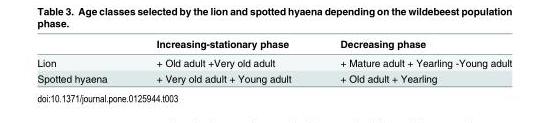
<table><thead><tr><td></td><td>Increasing-stationary phase</td><td>Decreasing phase</td></tr></thead><tbody><tr><td>Lion</td><td>+ Old adult +Very old adult</td><td>+ Mature adult + Yearling -Young adult</td></tr><tr><td>Spotted hyaena</td><td>+ Very old adult + Young adult</td><td>+ Old adult + Yearling</td></tr></tbody></table>